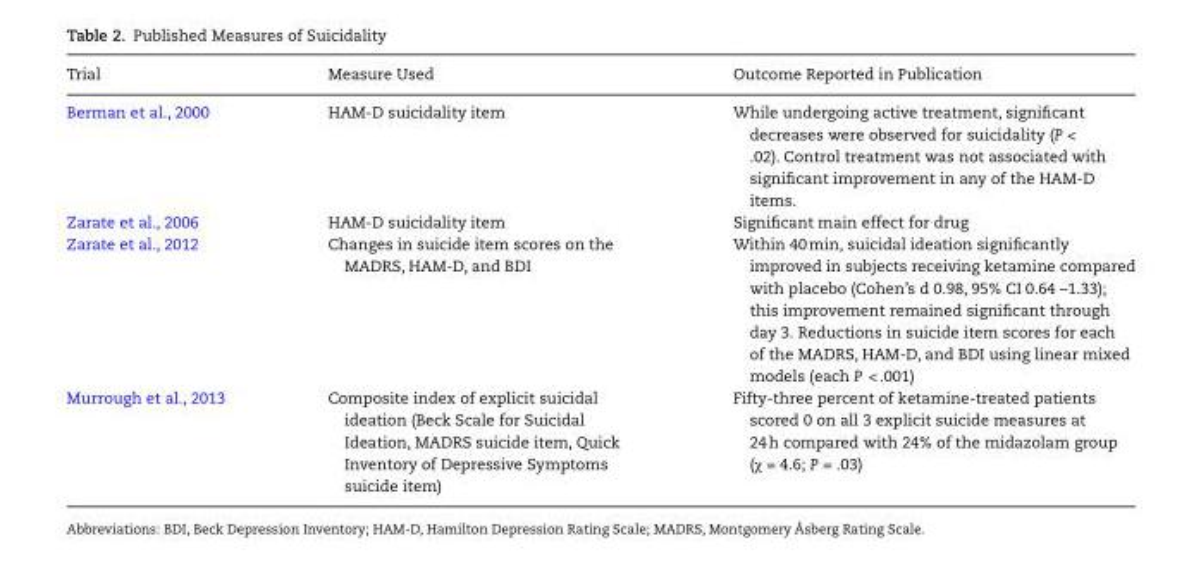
<table><thead><tr><td>Trial</td><td>Measure Used</td><td>Outcome Reported in Publication</td></tr></thead><tbody><tr><td>Berman et al., 2000</td><td>HAM-D suicidality item</td><td>While undergoing active treatment, significant decreases were observed for suicidality (P &lt; .02). Control treatment was not associated with significant improvement in any of the HAM-D items.</td></tr><tr><td>Zarate et al., 2006</td><td>HAM-D suicidality item</td><td>Significant main effect for drug</td></tr><tr><td>Zarate et al., 2012</td><td>Changes in suicide item scores on the MADRS, HAM-D, and BDI</td><td>Within 40 min, suicidal ideation significantly improved in subjects receiving ketamine compared with placebo (Cohen’s d 0.98, 95% CI 0.64 –1.33); this improvement remained significant through day 3. Reductions in suicide item scores for each of the MADRS, HAM-D, and BDI using linear mixed models (each P &lt; .001)</td></tr><tr><td>Murrough et al., 2013</td><td>Composite index of explicit suicidal ideation (Beck Scale for Suicidal Ideation, MADRS suicide item, Quick Inventory of Depressive Symptoms suicide item)</td><td>Fifty-three percent of ketamine-treated patients scored 0 on all 3 explicit suicide measures at 24 h compared with 24% of the midazolam group (χ = 4.6; P = .03)</td></tr></tbody></table>